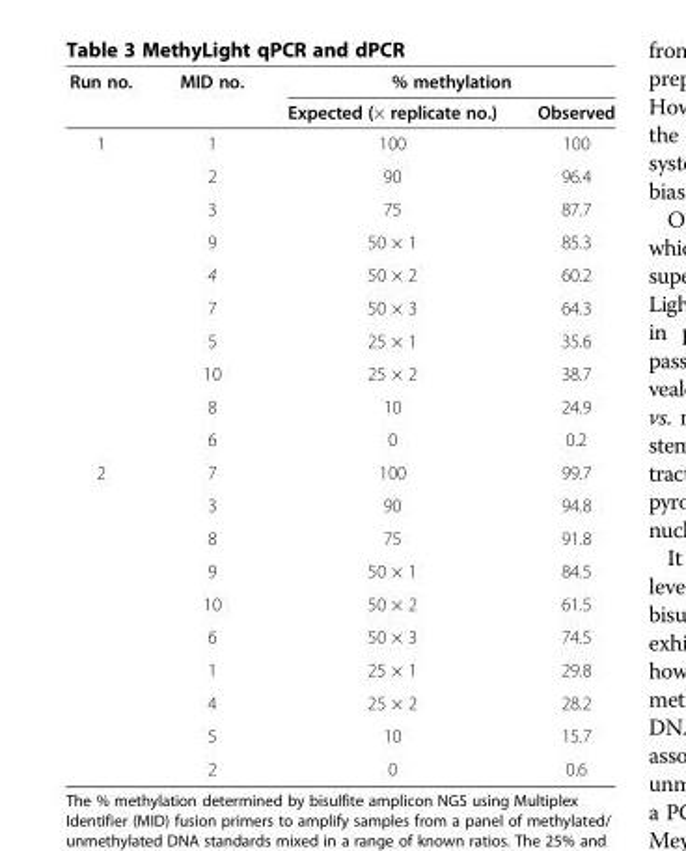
<table><thead><tr><td rowspan="2">Run no.</td><td rowspan="2">MID no.</td><td colspan="2">% methylation</td></tr><tr><td>Expected (× replicate no.)</td><td>Observed</td></tr></thead><tbody><tr><td rowspan="10">1</td><td>1</td><td>100</td><td>100</td></tr><tr><td>2</td><td>90</td><td>96.4</td></tr><tr><td>3</td><td>75</td><td>87.7</td></tr><tr><td>9</td><td>50 × 1</td><td>85.3</td></tr><tr><td>4</td><td>50 × 2</td><td>60.2</td></tr><tr><td>7</td><td>50 × 3</td><td>64.3</td></tr><tr><td>5</td><td>25 × 1</td><td>35.6</td></tr><tr><td>10</td><td>25 × 2</td><td>38.7</td></tr><tr><td>8</td><td>10</td><td>24.9</td></tr><tr><td>6</td><td>0</td><td>0.2</td></tr><tr><td rowspan="10">2</td><td>7</td><td>100</td><td>99.7</td></tr><tr><td>3</td><td>90</td><td>94.8</td></tr><tr><td>8</td><td>75</td><td>91.8</td></tr><tr><td>9</td><td>50 × 1</td><td>84.5</td></tr><tr><td>10</td><td>50 × 2</td><td>61.5</td></tr><tr><td>6</td><td>50 × 3</td><td>74.5</td></tr><tr><td>1</td><td>25 × 1</td><td>29.8</td></tr><tr><td>4</td><td>25 × 2</td><td>28.2</td></tr><tr><td>5</td><td>10</td><td>15.7</td></tr><tr><td>2</td><td>0</td><td>0.6</td></tr></tbody></table>